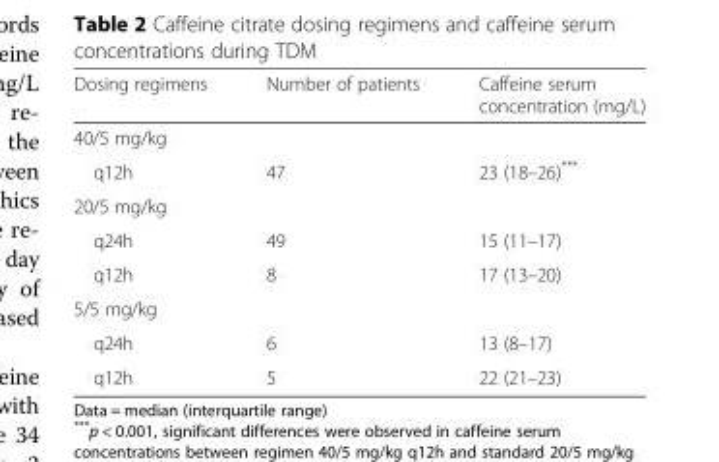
<table><thead><tr><td>Dosing regimens</td><td>Number of patients</td><td>Caffeine serum concentration (mg/L)</td></tr></thead><tbody><tr><td colspan="3">40/5 mg/kg</td></tr><tr><td>q12h</td><td>47</td><td>23 (18–26)***</td></tr><tr><td colspan="3">20/5 mg/kg</td></tr><tr><td>q24h</td><td>49</td><td>15 (11–17)</td></tr><tr><td>q12h</td><td>8</td><td>17 (13–20)</td></tr><tr><td colspan="3">5/5 mg/kg</td></tr><tr><td>q24h</td><td>6</td><td>13 (8–17)</td></tr><tr><td>q12h</td><td>5</td><td>22 (21–23)</td></tr></tbody></table>